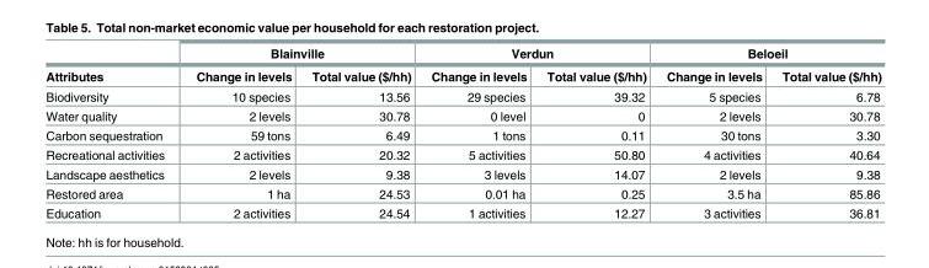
<table><thead><tr><td rowspan="2">Attributes</td><td colspan="2">Blainville</td><td colspan="2">Verdun</td><td colspan="2">Beloeil</td></tr><tr><td>Change in levels</td><td>Total value ($/hh)</td><td>Change in levels</td><td>Total value ($/hh)</td><td>Change in levels</td><td>Total value ($/hh)</td></tr></thead><tbody><tr><td>Biodiversity</td><td>10 species</td><td>13.56</td><td>29 species</td><td>39.32</td><td>5 species</td><td>6.78</td></tr><tr><td>Water quality</td><td>2 levels</td><td>30.78</td><td>0 level</td><td>0</td><td>2 levels</td><td>30.78</td></tr><tr><td>Carbon sequestration</td><td>59 tons</td><td>6.49</td><td>1 tons</td><td>0.11</td><td>30 tons</td><td>3.30</td></tr><tr><td>Recreational activities</td><td>2 activities</td><td>20.32</td><td>5 activities</td><td>50.80</td><td>4 activities</td><td>40.64</td></tr><tr><td>Landscape aesthetics</td><td>2 levels</td><td>9.38</td><td>3 levels</td><td>14.07</td><td>2 levels</td><td>9.38</td></tr><tr><td>Restored area</td><td>1 ha</td><td>24.53</td><td>0.01 ha</td><td>0.25</td><td>3.5 ha</td><td>85.86</td></tr><tr><td>Education</td><td>2 activities</td><td>24.54</td><td>1 activities</td><td>12.27</td><td>3 activities</td><td>36.81</td></tr></tbody></table>